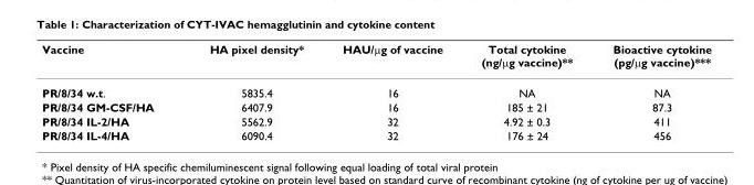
<table><thead><tr><td>Vaccine</td><td>HA pixel density*</td><td>HAU/μg of vaccine</td><td>Total cytokine (ng/μg vaccine)**</td><td>Bioactive cytokine (pg/μg vaccine)***</td></tr></thead><tbody><tr><td>PR/8/34 w.t.</td><td>5835.4</td><td>16</td><td>NA</td><td>NA</td></tr><tr><td>PR/8/34 GM-CSF/HA</td><td>6407.9</td><td>16</td><td>185 ± 21</td><td>87.3</td></tr><tr><td>PR/8/34 IL-2/HA</td><td>5562.9</td><td>32</td><td>4.92 ± 0.3</td><td>411</td></tr><tr><td>PR/8/34 IL-4/HA</td><td>6090.4</td><td>32</td><td>176 ± 24</td><td>456</td></tr></tbody></table>